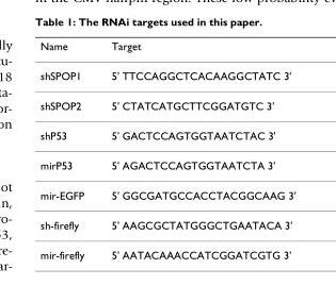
<table><thead><tr><td>Name</td><td>Target</td></tr></thead><tbody><tr><td>shSPOP1</td><td>5&#x27; TTCCAGGCTCACAAGGCTATC 3&#x27;</td></tr><tr><td>shSPOP2</td><td>5&#x27; CTATCATGCTTCGGATGTC 3&#x27;</td></tr><tr><td>shP53</td><td>5&#x27; GACTCCAGTGGTAATCTAC 3&#x27;</td></tr><tr><td>mirP53</td><td>5&#x27; AGACTCCAGTGGTAATCTA 3&#x27;</td></tr><tr><td>mir-EGFP</td><td>5&#x27; GGCGATGCCACCTACGGCAAG 3&#x27;</td></tr><tr><td>sh-firefly</td><td>5&#x27; AAGCGCTATGGGCTGAATACA 3&#x27;</td></tr><tr><td>mir-firefly</td><td>5&#x27; AATACAAACCATCGGATCGTG 3&#x27;</td></tr></tbody></table>